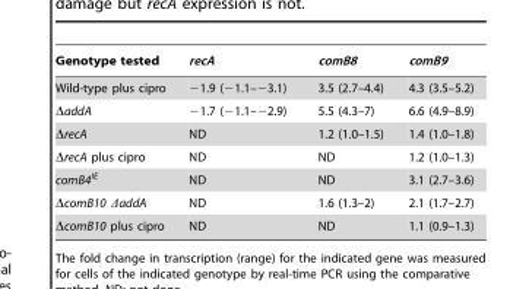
<table><thead><tr><td>Genotype tested</td><td>recA</td><td>comB8</td><td>comB9</td></tr></thead><tbody><tr><td>Wild-type plus cipro</td><td>−1.9 (−1.1–−3.1)</td><td>3.5 (2.7–4.4)</td><td>4.3 (3.5–5.2)</td></tr><tr><td>ΔaddA</td><td>−1.7 (−1.1–−2.9)</td><td>5.5 (4.3–7)</td><td>6.6 (4.9–8.9)</td></tr><tr><td>ΔrecA</td><td>ND</td><td>1.2 (1.0–1.5)</td><td>1.4 (1.0–1.8)</td></tr><tr><td>ΔrecA plus cipro</td><td>ND</td><td>ND</td><td>1.2 (1.0–1.3)</td></tr><tr><td>comB4<sup>IE</sup></td><td>ND</td><td>ND</td><td>3.1 (2.7–3.6)</td></tr><tr><td>ΔcomB10 ΔaddA</td><td>ND</td><td>1.6 (1.3–2)</td><td>2.1 (1.7–2.7)</td></tr><tr><td>ΔcomB10 plus cipro</td><td>ND</td><td>ND</td><td>1.1 (0.9–1.3)</td></tr></tbody></table>